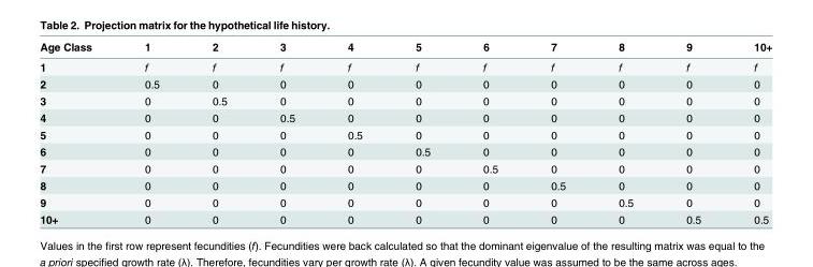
<table><thead><tr><td>Age Class</td><td>1</td><td>2</td><td>3</td><td>4</td><td>5</td><td>6</td><td>7</td><td>8</td><td>9</td><td>10+</td></tr></thead><tbody><tr><td>1</td><td>f</td><td>f</td><td>f</td><td>f</td><td>f</td><td>f</td><td>f</td><td>f</td><td>f</td><td>f</td></tr><tr><td>2</td><td>0.5</td><td>0</td><td>0</td><td>0</td><td>0</td><td>0</td><td>0</td><td>0</td><td>0</td><td>0</td></tr><tr><td>3</td><td>0</td><td>0.5</td><td>0</td><td>0</td><td>0</td><td>0</td><td>0</td><td>0</td><td>0</td><td>0</td></tr><tr><td>4</td><td>0</td><td>0</td><td>0.5</td><td>0</td><td>0</td><td>0</td><td>0</td><td>0</td><td>0</td><td>0</td></tr><tr><td>5</td><td>0</td><td>0</td><td>0</td><td>0.5</td><td>0</td><td>0</td><td>0</td><td>0</td><td>0</td><td>0</td></tr><tr><td>6</td><td>0</td><td>0</td><td>0</td><td>0</td><td>0.5</td><td>0</td><td>0</td><td>0</td><td>0</td><td>0</td></tr><tr><td>7</td><td>0</td><td>0</td><td>0</td><td>0</td><td>0</td><td>0.5</td><td>0</td><td>0</td><td>0</td><td>0</td></tr><tr><td>8</td><td>0</td><td>0</td><td>0</td><td>0</td><td>0</td><td>0</td><td>0.5</td><td>0</td><td>0</td><td>0</td></tr><tr><td>9</td><td>0</td><td>0</td><td>0</td><td>0</td><td>0</td><td>0</td><td>0</td><td>0.5</td><td>0</td><td>0</td></tr><tr><td>10+</td><td>0</td><td>0</td><td>0</td><td>0</td><td>0</td><td>0</td><td>0</td><td>0</td><td>0.5</td><td>0.5</td></tr></tbody></table>